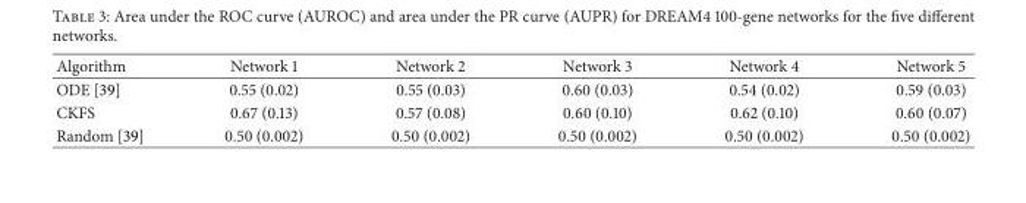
<table><thead><tr><td>Algorithm</td><td>Network 1</td><td>Network 2</td><td>Network 3</td><td>Network 4</td><td>Network 5</td></tr></thead><tbody><tr><td>ODE [39]</td><td>0.55 (0.02)</td><td>0.55 (0.03)</td><td>0.60 (0.03)</td><td>0.54 (0.02)</td><td>0.59 (0.03)</td></tr><tr><td>CKFS</td><td>0.67 (0.13)</td><td>0.57 (0.08)</td><td>0.60 (0.10)</td><td>0.62 (0.10)</td><td>0.60 (0.07)</td></tr><tr><td>Random [39]</td><td>0.50 (0.002)</td><td>0.50 (0.002)</td><td>0.50 (0.002)</td><td>0.50 (0.002)</td><td>0.50 (0.002)</td></tr></tbody></table>